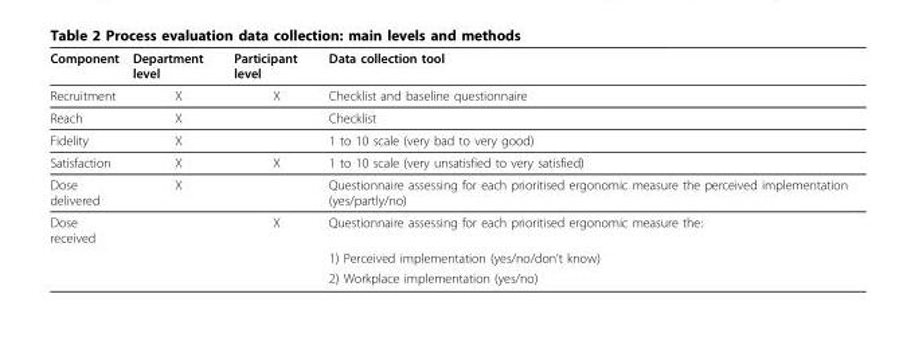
<table><thead><tr><td>Component</td><td>Department level</td><td>Participant level</td><td>Data collection tool</td></tr></thead><tbody><tr><td>Recruitment</td><td>X</td><td>X</td><td>Checklist and baseline questionnaire</td></tr><tr><td>Reach</td><td>X</td><td></td><td>Checklist</td></tr><tr><td>Fidelity</td><td>X</td><td></td><td>1 to 10 scale (very bad to very good)</td></tr><tr><td>Satisfaction</td><td>X</td><td>X</td><td>1 to 10 scale (very unsatisfied to very satisfied)</td></tr><tr><td>Dose delivered</td><td>X</td><td></td><td>Questionnaire assessing for each prioritised ergonomic measure the perceived implementation (yes/partly/no)</td></tr><tr><td rowspan="3">Dose received</td><td></td><td>X</td><td>Questionnaire assessing for each prioritised ergonomic measure the:</td></tr><tr><td></td><td></td><td>1) Perceived implementation (yes/no/don’t know)</td></tr><tr><td></td><td></td><td>2) Workplace implementation (yes/no)</td></tr></tbody></table>